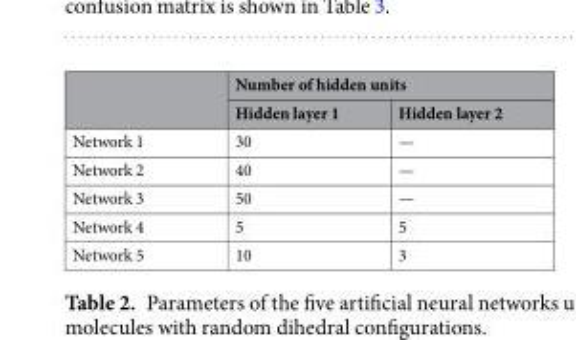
<table><thead><tr><td rowspan="2"></td><td colspan="2">Number of hidden units</td></tr><tr><td>Hidden layer 1</td><td>Hidden layer 2</td></tr></thead><tbody><tr><td>Network 1</td><td>30</td><td>—</td></tr><tr><td>Network 2</td><td>40</td><td>—</td></tr><tr><td>Network 3</td><td>50</td><td>—</td></tr><tr><td>Network 4</td><td>5</td><td>5</td></tr><tr><td>Network 5</td><td>10</td><td>3</td></tr></tbody></table>